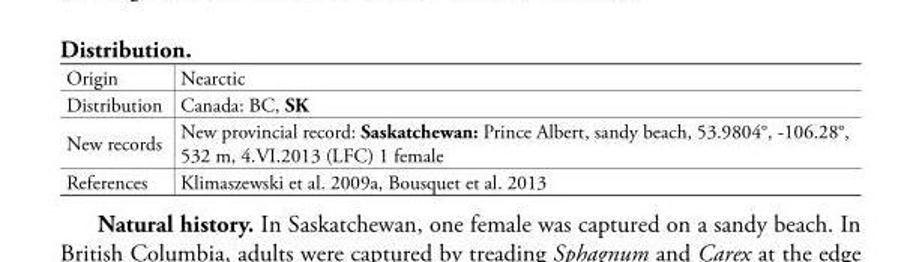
<table><tbody><tr><td>Origin</td><td>Nearctic</td></tr><tr><td>Distribution</td><td>Canada: BC, SK</td></tr><tr><td>New records</td><td>New provincial record: Saskatchewan: Prince Albert, sandy beach, 53.9804°, -106.28°, 532 m, 4.VI.2013 (LFC) 1 female</td></tr><tr><td>References</td><td>Klimaszewski et al. 2009a, Bousquet et al. 2013</td></tr></tbody></table>